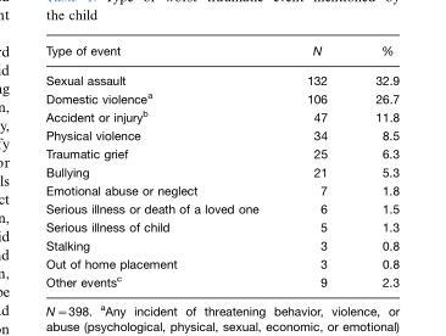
<table><thead><tr><td>Type of event</td><td>N</td><td>%</td></tr></thead><tbody><tr><td>Sexual assault</td><td>132</td><td>32.9</td></tr><tr><td>Domestic violence<sup>a</sup></td><td>106</td><td>26.7</td></tr><tr><td>Accident or injury<sup>b</sup></td><td>47</td><td>11.8</td></tr><tr><td>Physical violence</td><td>34</td><td>8.5</td></tr><tr><td>Traumatic grief</td><td>25</td><td>6.3</td></tr><tr><td>Bullying</td><td>21</td><td>5.3</td></tr><tr><td>Emotional abuse or neglect</td><td>7</td><td>1.8</td></tr><tr><td>Serious illness or death of a loved one</td><td>6</td><td>1.5</td></tr><tr><td>Serious illness of child</td><td>5</td><td>1.3</td></tr><tr><td>Stalking</td><td>3</td><td>0.8</td></tr><tr><td>Out of home placement</td><td>3</td><td>0.8</td></tr><tr><td>Other events<sup>c</sup></td><td>9</td><td>2.3</td></tr></tbody></table>